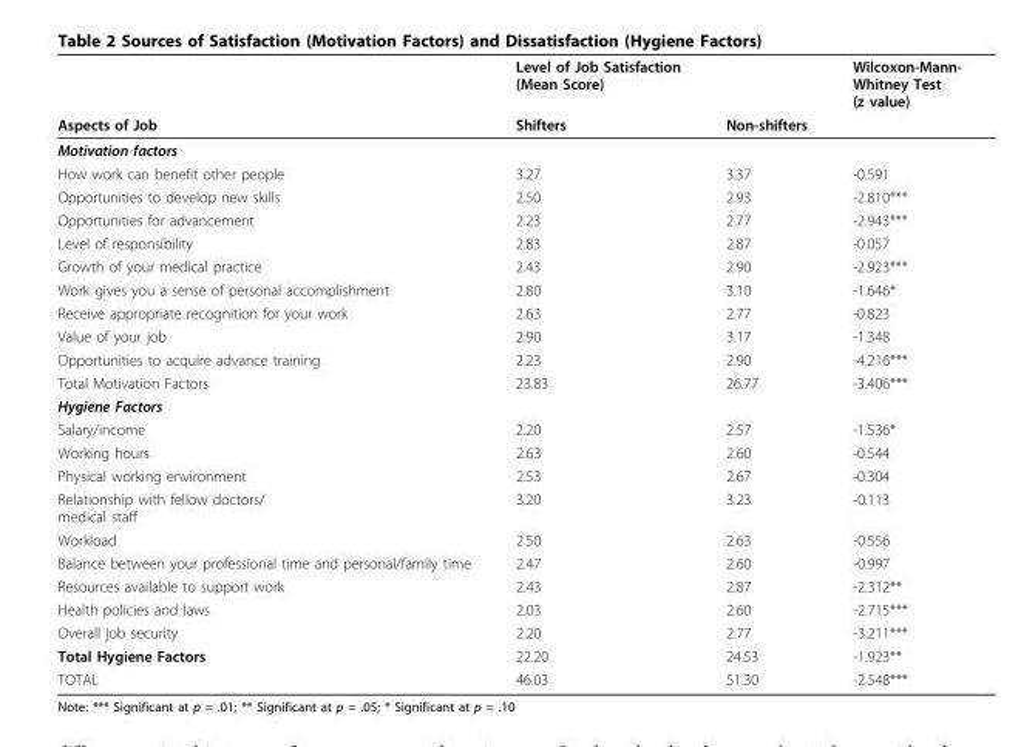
<table><thead><tr><td rowspan="2">Aspects of Job</td><td rowspan="2">Level of Job Satisfaction (Mean Score) Shifters</td><td rowspan="2">Non-shifters</td><td rowspan="2">Wilcoxon-Mann- Whitney Test (z value)</td></tr><tr></tr></thead><tbody><tr><td colspan="4">Motivation factors</td></tr><tr><td>How work can benefit other people</td><td>3.27</td><td>3.37</td><td>-0.591</td></tr><tr><td>Opportunities to develop new skills</td><td>2.50</td><td>2.93</td><td>-2.810***</td></tr><tr><td>Opportunities for advancement</td><td>2.23</td><td>2.77</td><td>-2.943***</td></tr><tr><td>Level of responsibility</td><td>2.83</td><td>2.87</td><td>-0.057</td></tr><tr><td>Growth of your medical practice</td><td>2.43</td><td>2.90</td><td>-2.923***</td></tr><tr><td>Work gives you a sense of personal accomplishment</td><td>2.80</td><td>3.10</td><td>-1.646*</td></tr><tr><td>Receive appropriate recognition for your work</td><td>2.63</td><td>2.77</td><td>-0.823</td></tr><tr><td>Value of your job</td><td>2.90</td><td>3.17</td><td>-1.348</td></tr><tr><td>Opportunities to acquire advance training</td><td>2.23</td><td>2.90</td><td>-4.216***</td></tr><tr><td>Total Motivation Factors</td><td>23.83</td><td>26.77</td><td>-3.406***</td></tr><tr><td colspan="4">Hygiene Factors</td></tr><tr><td>Salary/income</td><td>2.20</td><td>2.57</td><td>-1.536*</td></tr><tr><td>Working hours</td><td>2.63</td><td>2.60</td><td>-0.544</td></tr><tr><td>Physical working environment</td><td>2.53</td><td>2.67</td><td>-0.304</td></tr><tr><td>Relationship with fellow doctors/ medical staff</td><td>3.20</td><td>3.23</td><td>-0.113</td></tr><tr><td>Workload</td><td>2.50</td><td>2.63</td><td>-0.556</td></tr><tr><td>Balance between your professional time and personal/family time</td><td>2.47</td><td>2.60</td><td>-0.997</td></tr><tr><td>Resources available to support work</td><td>2.43</td><td>2.87</td><td>-2.312**</td></tr><tr><td>Health policies and laws</td><td>2.03</td><td>2.60</td><td>-2.715***</td></tr><tr><td>Overall job security</td><td>2.20</td><td>2.77</td><td>-3.211***</td></tr><tr><td>Total Hygiene Factors</td><td>22.20</td><td>24.53</td><td>-1.923**</td></tr><tr><td>TOTAL</td><td>46.03</td><td>51.30</td><td>-2.548***</td></tr></tbody></table>